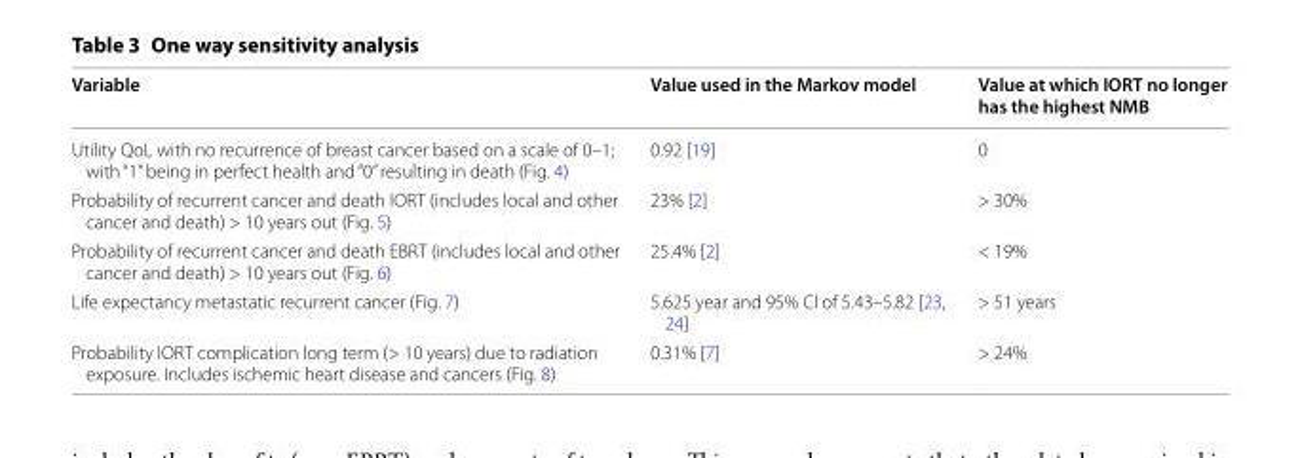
<table><thead><tr><td>Variable</td><td>Value used in the Markov model</td><td>Value at which IORT no longer has the highest NMB</td></tr></thead><tbody><tr><td>Utility QoL with no recurrence of breast cancer based on a scale of 0–1; with “1” being in perfect health and “0” resulting in death (Fig. 4)</td><td>0.92 [19]</td><td>0</td></tr><tr><td>Probability of recurrent cancer and death IORT (includes local and other cancer and death) &gt; 10 years out (Fig. 5)</td><td>23% [2]</td><td>&gt; 30%</td></tr><tr><td>Probability of recurrent cancer and death EBRT (includes local and other cancer and death) &gt; 10 years out (Fig. 6)</td><td>25.4% [2]</td><td>&lt; 19%</td></tr><tr><td>Life expectancy metastatic recurrent cancer (Fig. 7)</td><td>5.625 year and 95% CI of 5.43–5.82 [23, 24]</td><td>&gt; 51 years</td></tr><tr><td>Probability IORT complication long term (&gt; 10 years) due to radiation exposure. Includes ischemic heart disease and cancers (Fig. 8)</td><td>0.31% [7]</td><td>&gt; 24%</td></tr></tbody></table>